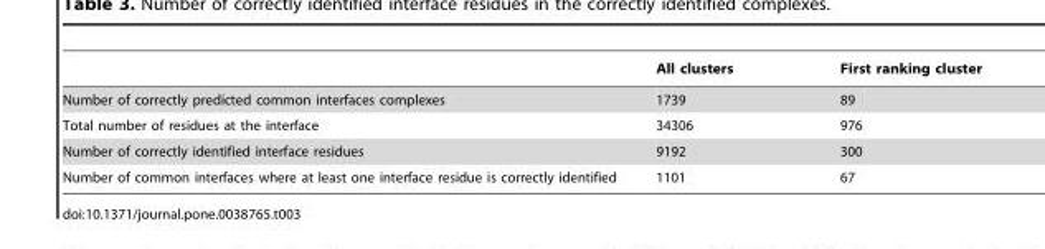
<table><thead><tr><td></td><td>All clusters</td><td>First ranking cluster</td></tr></thead><tbody><tr><td>Number of correctly predicted common interfaces complexes</td><td>1739</td><td>89</td></tr><tr><td>Total number of residues at the interface</td><td>34306</td><td>976</td></tr><tr><td>Number of correctly identified interface residues</td><td>9192</td><td>300</td></tr><tr><td>Number of common interfaces where at least one interface residue is correctly identified</td><td>1101</td><td>67</td></tr></tbody></table>